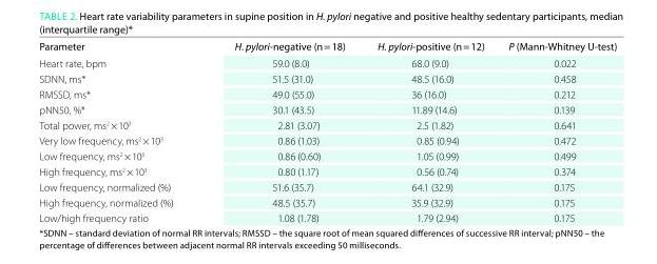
<table><thead><tr><td>Parameter</td><td>H. pylori-negative (n = 18)</td><td>H. pylori-positive (n = 12)</td><td>P (Mann-Whitney u-test)</td></tr></thead><tbody><tr><td>Heart rate, bpm</td><td>59.0 (8.0)</td><td>68.0 (9.0)</td><td>0.022</td></tr><tr><td>SDNN, ms*</td><td>51.5 (31.0)</td><td>48.5 (16.0)</td><td>0.458</td></tr><tr><td>RMSSD, ms*</td><td>49.0 (55.0)</td><td>36 (16.0)</td><td>0.212</td></tr><tr><td>pNN50, %*</td><td>30.1 (43.5)</td><td>11.89 (14.6)</td><td>0.139</td></tr><tr><td>Total power, ms<sup>2</sup> × 10<sup>3</sup></td><td>2.81 (3.07)</td><td>2.5 (1.82)</td><td>0.641</td></tr><tr><td>Very low frequency, ms<sup>2</sup> × 10<sup>3</sup></td><td>0.86 (1.03)</td><td>0.85 (0.94)</td><td>0.472</td></tr><tr><td>Low frequency, ms<sup>2</sup> × 10<sup>3</sup></td><td>0.86 (0.60)</td><td>1.05 (0.99)</td><td>0.499</td></tr><tr><td>High frequency, ms<sup>2</sup> × 10<sup>3</sup></td><td>0.80 (1.17)</td><td>0.56 (0.74)</td><td>0.374</td></tr><tr><td>Low frequency, normalized (%)</td><td>51.6 (35.7)</td><td>64.1 (32.9)</td><td>0.175</td></tr><tr><td>High frequency, normalized (%)</td><td>48.5 (35.7)</td><td>35.9 (32.9)</td><td>0.175</td></tr><tr><td>Low/high frequency ratio</td><td>1.08 (1.78)</td><td>1.79 (2.94)</td><td>0.175</td></tr></tbody></table>